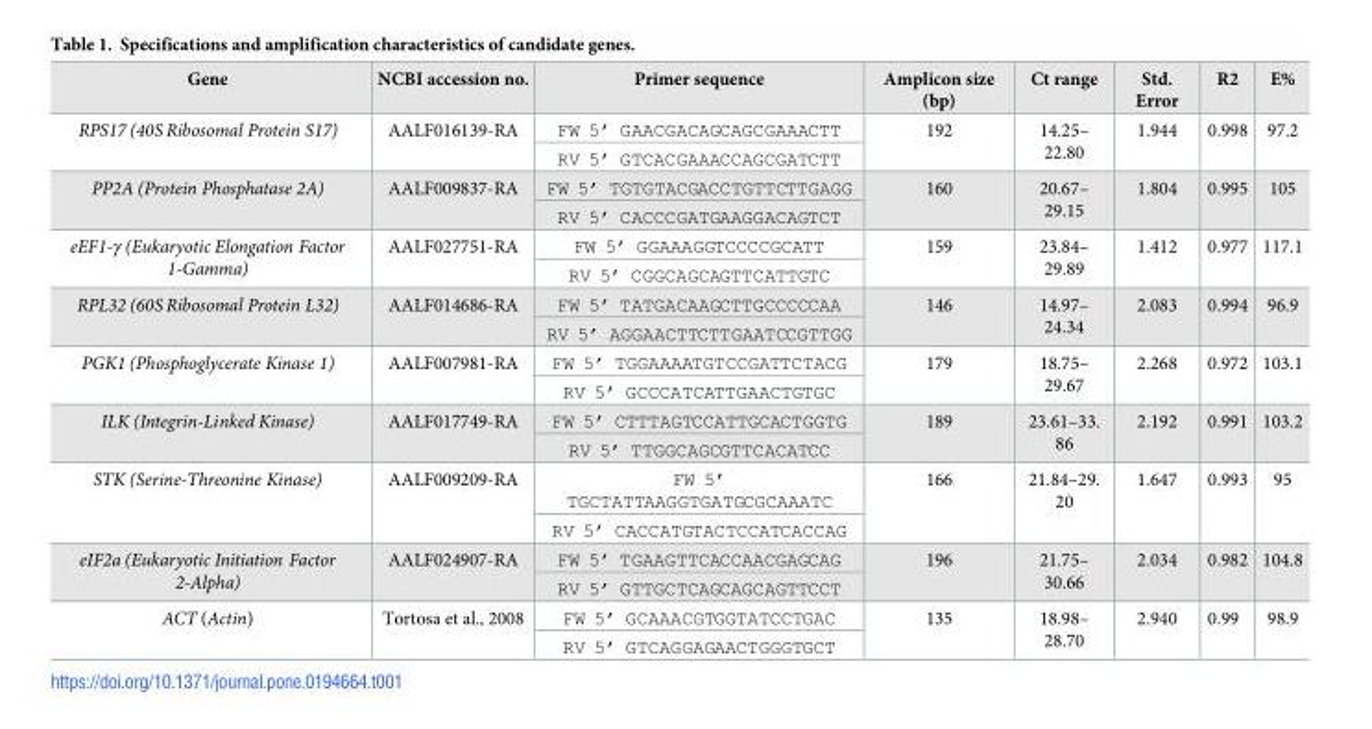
<table><thead><tr><td>Gene</td><td>NCBI accession no.</td><td>Primer sequence</td><td>Amplicon size (bp)</td><td>Ct range</td><td>Std. Error</td><td>R2</td><td>E%</td></tr></thead><tbody><tr><td rowspan="2">RPS17 (40S Ribosomal Protein S17)</td><td rowspan="2">AALF016139-RA</td><td>FW 5’ GAACGACAGCAGCGAAACTT</td><td rowspan="2">192</td><td rowspan="2">14.25– 22.80</td><td rowspan="2">1.944</td><td rowspan="2">0.998</td><td rowspan="2">97.2</td></tr><tr><td>RV 5’ GTCACGAAACCAGCGATCTT</td></tr><tr><td rowspan="2">PP2A (Protein Phosphatase 2A)</td><td rowspan="2">AALF009837-RA</td><td>FW 5’ TGTGTACGACCTGTTCTTGAGG</td><td rowspan="2">160</td><td rowspan="2">20.67– 29.15</td><td rowspan="2">1.804</td><td rowspan="2">0.995</td><td rowspan="2">105</td></tr><tr><td>RV 5’ CACCCGATGAAGGACAGTCT</td></tr><tr><td rowspan="2">eEF1-γ (Eukaryotic Elongation Factor 1-Gamma)</td><td rowspan="2">AALF027751-RA</td><td>FW 5’ GGAAAGGTCCCCGCATT</td><td rowspan="2">159</td><td rowspan="2">23.84– 29.89</td><td rowspan="2">1.412</td><td rowspan="2">0.977</td><td rowspan="2">117.1</td></tr><tr><td>RV 5’ CGGCAGCAGTTCATTGTC</td></tr><tr><td rowspan="2">RPL32 (60S Ribosomal Protein L32)</td><td rowspan="2">AALF014686-RA</td><td>FW 5’ TATGACAAGCTTGCCCCCAA</td><td rowspan="2">146</td><td rowspan="2">14.97– 24.34</td><td rowspan="2">2.083</td><td rowspan="2">0.994</td><td rowspan="2">96.9</td></tr><tr><td>RV 5’ AGGAACTTCTTGAATCCGTTGG</td></tr><tr><td rowspan="2">PGK1 (Phosphoglycerate Kinase 1)</td><td rowspan="2">AALF007981-RA</td><td>FW 5’ TGGAAAATGTCCGATTCTACG</td><td rowspan="2">179</td><td rowspan="2">18.75– 29.67</td><td rowspan="2">2.268</td><td rowspan="2">0.972</td><td rowspan="2">103.1</td></tr><tr><td>RV 5’ GCCCATCATTGAACTGTGC</td></tr><tr><td rowspan="2">ILK (Integrin-Linked Kinase)</td><td rowspan="2">AALF017749-RA</td><td>FW 5’ CTTTAGTCCATTGCACTGGTG</td><td rowspan="2">189</td><td rowspan="2">23.61–33. 86</td><td rowspan="2">2.192</td><td rowspan="2">0.991</td><td rowspan="2">103.2</td></tr><tr><td>RV 5’ TTGGCAGCGTTCACATCC</td></tr><tr><td rowspan="2">STK (Serine-Threonine Kinase)</td><td rowspan="2">AALF009209-RA</td><td>FW 5’ TGCTATTAAGGTGATGCGCAAATC</td><td rowspan="2">166</td><td rowspan="2">21.84–29. 20</td><td rowspan="2">1.647</td><td rowspan="2">0.993</td><td rowspan="2">95</td></tr><tr><td>RV 5’ CACCATGTACTCCATCACCAG</td></tr><tr><td rowspan="2">eIF2a (Eukaryotic Initiation Factor 2-Alpha)</td><td rowspan="2">AALF024907-RA</td><td>FW 5’ TGAAGTTCACCAACGAGCAG</td><td rowspan="2">196</td><td rowspan="2">21.75– 30.66</td><td rowspan="2">2.034</td><td rowspan="2">0.982</td><td rowspan="2">104.8</td></tr><tr><td>RV 5’ GTTGCTCAGCAGCAGTTCCT</td></tr><tr><td rowspan="2">ACT (Actin)</td><td rowspan="2">Tortosa et al., 2008</td><td>FW 5’ GCAAACGTGGTATCCTGAC</td><td rowspan="2">135</td><td rowspan="2">18.98– 28.70</td><td rowspan="2">2.940</td><td rowspan="2">0.99</td><td rowspan="2">98.9</td></tr><tr><td>RV 5’ GTCAGGAGAACTGGGTGCT</td></tr></tbody></table>